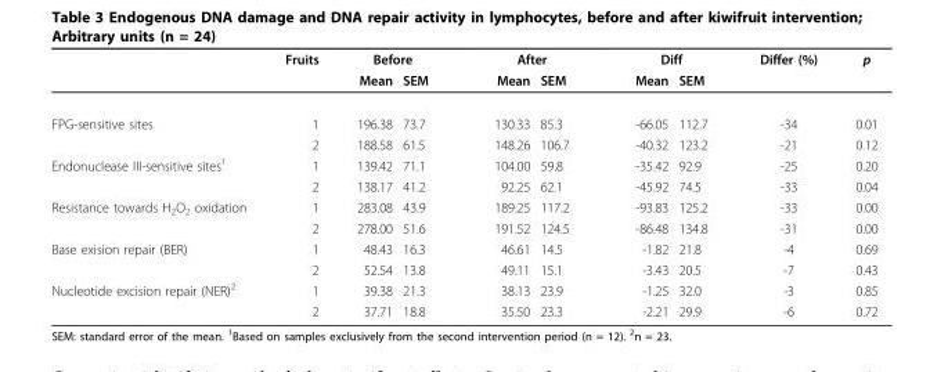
<table><thead><tr><td colspan="2">Fruits</td><td colspan="2">Before</td><td colspan="2">After</td><td colspan="2">Diff</td><td rowspan="2">Differ (%)</td><td rowspan="2">p</td></tr><tr><td></td><td></td><td>Mean</td><td>SEM</td><td>Mean</td><td>SEM</td><td>Mean</td><td>SEM</td></tr></thead><tbody><tr><td rowspan="2">FPG-sensitive sites</td><td>1</td><td>196.38</td><td>73.7</td><td>130.33</td><td>85.3</td><td>-66.05</td><td>112.7</td><td>-34</td><td>0.01</td></tr><tr><td>2</td><td>188.58</td><td>61.5</td><td>148.26</td><td>106.7</td><td>-40.32</td><td>123.2</td><td>-21</td><td>0.12</td></tr><tr><td rowspan="2">Endonuclease III-sensitive sites<sup>1</sup></td><td>1</td><td>139.42</td><td>71.1</td><td>104.00</td><td>59.8</td><td>-35.42</td><td>92.9</td><td>-25</td><td>0.20</td></tr><tr><td>2</td><td>138.17</td><td>41.2</td><td>92.25</td><td>62.1</td><td>-45.92</td><td>74.5</td><td>-33</td><td>0.04</td></tr><tr><td rowspan="2">Resistance towards H<sub>2</sub>O<sub>2</sub> oxidation</td><td>1</td><td>283.08</td><td>43.9</td><td>189.25</td><td>117.2</td><td>-93.83</td><td>125.2</td><td>-33</td><td>0.00</td></tr><tr><td>2</td><td>278.00</td><td>51.6</td><td>191.52</td><td>124.5</td><td>-86.48</td><td>134.8</td><td>-31</td><td>0.00</td></tr><tr><td rowspan="2">Base exision repair (BER)</td><td>1</td><td>48.43</td><td>16.3</td><td>46.61</td><td>14.5</td><td>-1.82</td><td>21.8</td><td>-4</td><td>0.69</td></tr><tr><td>2</td><td>52.54</td><td>13.8</td><td>49.11</td><td>15.1</td><td>-3.43</td><td>20.5</td><td>-7</td><td>0.43</td></tr><tr><td rowspan="2">Nucleotide excision repair (NER)<sup>2</sup></td><td>1</td><td>39.38</td><td>21.3</td><td>38.13</td><td>23.9</td><td>-1.25</td><td>32.0</td><td>-3</td><td>0.85</td></tr><tr><td>2</td><td>37.71</td><td>18.8</td><td>35.50</td><td>23.3</td><td>-2.21</td><td>29.9</td><td>-6</td><td>0.72</td></tr></tbody></table>